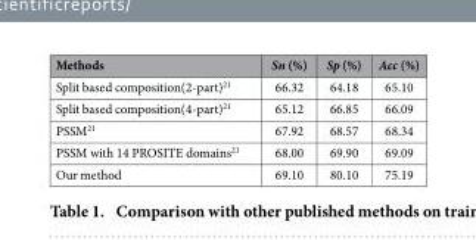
<table><thead><tr><td>Methods</td><td>Sn (%)</td><td>Sp (%)</td><td>Acc (%)</td></tr></thead><tbody><tr><td>Split based composition(2-part)<sup>21</sup></td><td>66.32</td><td>64.18</td><td>65.10</td></tr><tr><td>Split based composition(4-part)<sup>21</sup></td><td>65.12</td><td>66.85</td><td>66.09</td></tr><tr><td>PSSM<sup>21</sup></td><td>67.92</td><td>68.57</td><td>68.34</td></tr><tr><td>PSSM with 14 PROSITE domains<sup>21</sup></td><td>68.00</td><td>69.90</td><td>69.09</td></tr><tr><td>Our method</td><td>69.10</td><td>80.10</td><td>75.19</td></tr></tbody></table>